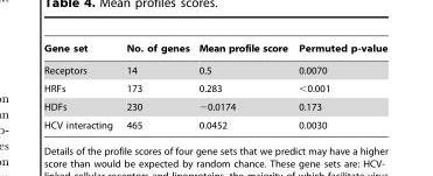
<table><thead><tr><td>Gene set</td><td>No. of genes</td><td>Mean profile score</td><td>Permuted p-value</td></tr></thead><tbody><tr><td>Receptors</td><td>14</td><td>0.5</td><td>0.0070</td></tr><tr><td>HRFs</td><td>173</td><td>0.283</td><td>&lt;0.001</td></tr><tr><td>HDFs</td><td>230</td><td>−0.0174</td><td>0.173</td></tr><tr><td>HCV interacting</td><td>465</td><td>0.0452</td><td>0.0030</td></tr></tbody></table>